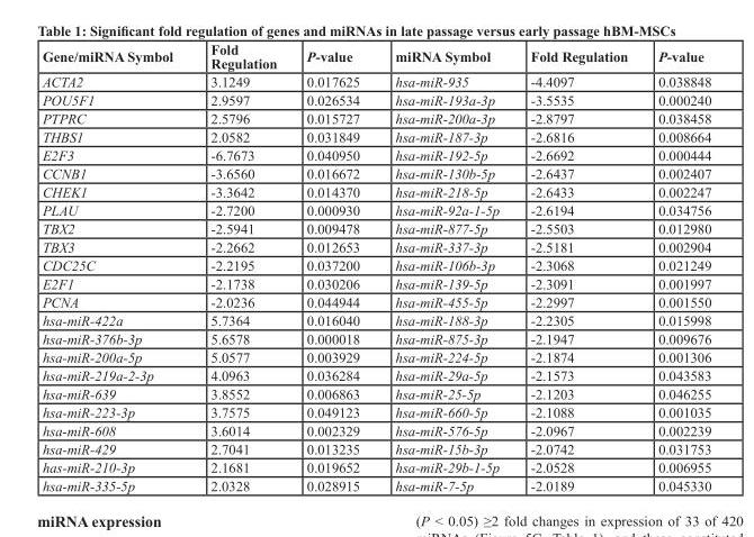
<table><thead><tr><td>Gene/miRNA Symbol</td><td>Fold Regulation</td><td>P-value</td><td>miRNA Symbol</td><td>Fold Regulation</td><td>P-value</td></tr></thead><tbody><tr><td>ACTA2</td><td>3.1249</td><td>0.017625</td><td>hsa-miR-935</td><td>-4.4097</td><td>0.038848</td></tr><tr><td>POU5F1</td><td>2.9597</td><td>0.026534</td><td>hsa-miR-193a-3p</td><td>-3.5535</td><td>0.000240</td></tr><tr><td>PTPRC</td><td>2.5796</td><td>0.015727</td><td>hsa-miR-200a-3p</td><td>-2.8797</td><td>0.038458</td></tr><tr><td>THBS1</td><td>2.0582</td><td>0.031849</td><td>hsa-miR-187-3p</td><td>-2.6816</td><td>0.008664</td></tr><tr><td>E2F3</td><td>-6.7673</td><td>0.040950</td><td>hsa-miR-192-5p</td><td>-2.6692</td><td>0.000444</td></tr><tr><td>CCNB1</td><td>-3.6560</td><td>0.016672</td><td>hsa-miR-130b-5p</td><td>-2.6437</td><td>0.002407</td></tr><tr><td>CHEK1</td><td>-3.3642</td><td>0.014370</td><td>hsa-miR-218-5p</td><td>-2.6433</td><td>0.002247</td></tr><tr><td>PLAU</td><td>-2.7200</td><td>0.000930</td><td>hsa-miR-92a-1-5p</td><td>-2.6194</td><td>0.034756</td></tr><tr><td>TBX2</td><td>-2.5941</td><td>0.009478</td><td>hsa-miR-877-5p</td><td>-2.5503</td><td>0.012980</td></tr><tr><td>TBX3</td><td>-2.2662</td><td>0.012653</td><td>hsa-miR-337-3p</td><td>-2.5181</td><td>0.002904</td></tr><tr><td>CDC25C</td><td>-2.2195</td><td>0.037200</td><td>hsa-miR-106b-3p</td><td>-2.3068</td><td>0.021249</td></tr><tr><td>E2F1</td><td>-2.1738</td><td>0.030206</td><td>hsa-miR-139-5p</td><td>-2.3091</td><td>0.001997</td></tr><tr><td>PCNA</td><td>-2.0236</td><td>0.044944</td><td>hsa-miR-455-5p</td><td>-2.2997</td><td>0.001550</td></tr><tr><td>hsa-miR-422a</td><td>5.7364</td><td>0.016040</td><td>hsa-miR-188-3p</td><td>-2.2305</td><td>0.015998</td></tr><tr><td>hsa-miR-376b-3p</td><td>5.6578</td><td>0.000018</td><td>hsa-miR-875-3p</td><td>-2.1947</td><td>0.009676</td></tr><tr><td>hsa-miR-200a-5p</td><td>5.0577</td><td>0.003929</td><td>hsa-miR-224-5p</td><td>-2.1874</td><td>0.001306</td></tr><tr><td>hsa-miR-219a-2-3p</td><td>4.0963</td><td>0.036284</td><td>hsa-miR-29a-5p</td><td>-2.1573</td><td>0.043583</td></tr><tr><td>hsa-miR-639</td><td>3.8552</td><td>0.006863</td><td>hsa-miR-25-5p</td><td>-2.1203</td><td>0.046255</td></tr><tr><td>hsa-miR-223-3p</td><td>3.7575</td><td>0.049123</td><td>hsa-miR-660-5p</td><td>-2.1088</td><td>0.001035</td></tr><tr><td>hsa-miR-608</td><td>3.6014</td><td>0.002329</td><td>hsa-miR-576-5p</td><td>-2.0967</td><td>0.002239</td></tr><tr><td>hsa-miR-429</td><td>2.7041</td><td>0.013235</td><td>hsa-miR-15b-3p</td><td>-2.0742</td><td>0.031753</td></tr><tr><td>has-miR-210-3p</td><td>2.1681</td><td>0.019652</td><td>hsa-miR-29b-1-5p</td><td>-2.0528</td><td>0.006955</td></tr><tr><td>hsa-miR-335-5p</td><td>2.0328</td><td>0.028915</td><td>hsa-miR-7-5p</td><td>-2.0189</td><td>0.045330</td></tr></tbody></table>